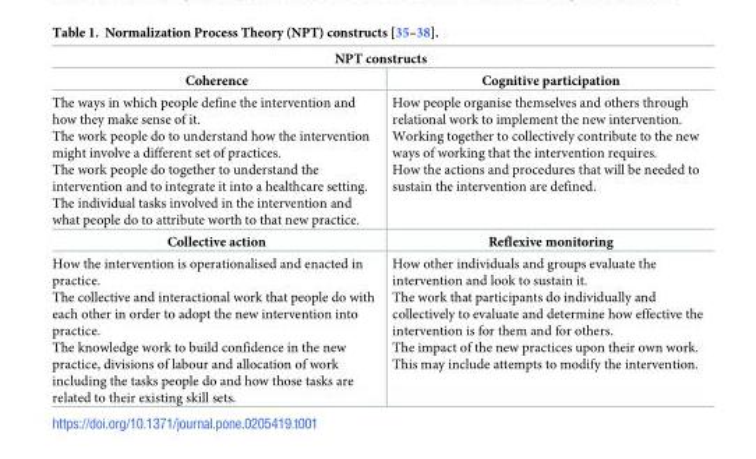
<table><thead><tr><td colspan="2">NPT constructs</td></tr><tr><td>Coherence</td><td>Cognitive participation</td></tr></thead><tbody><tr><td>The ways in which people define the intervention and how they make sense of it. The work people do to understand how the intervention might involve a different set of practices. The work people do together to understand the intervention and to integrate it into a healthcare setting. The individual tasks involved in the intervention and what people do to attribute worth to that new practice.</td><td>How people organise themselves and others through relational work to implement the new intervention. Working together to collectively contribute to the new ways of working that the intervention requires. How the actions and procedures that will be needed to sustain the intervention are defined.</td></tr><tr><td>Collective action</td><td>Reflexive monitoring</td></tr><tr><td>How the intervention is operationalised and enacted in practice. The collective and interactional work that people do with each other in order to adopt the new intervention into practice. The knowledge work to build confidence in the new practice, divisions of labour and allocation of work including the tasks people do and how those tasks are related to their existing skill sets.</td><td>How other individuals and groups evaluate the intervention and look to sustain it. The work that participants do individually and collectively to evaluate and determine how effective the intervention is for them and for others. The impact of the new practices upon their own work. This may include attempts to modify the intervention.</td></tr></tbody></table>